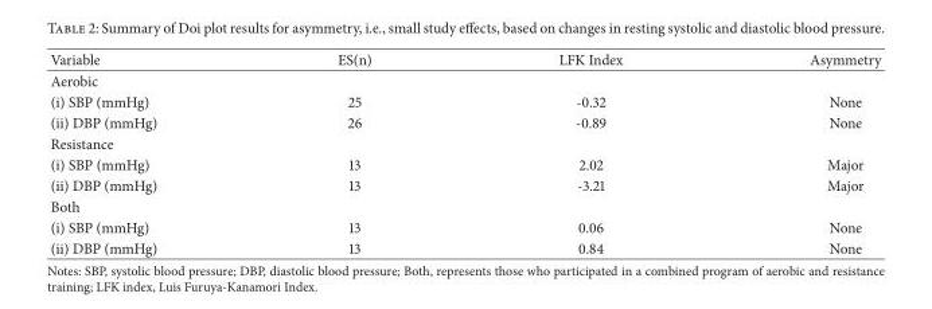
<table><thead><tr><td>Variable</td><td>ES(n)</td><td>LFK Index</td><td>Asymmetry</td></tr></thead><tbody><tr><td colspan="4">Aerobic</td></tr><tr><td>(i) SBP (mmHg)</td><td>25</td><td>-0.32</td><td>None</td></tr><tr><td>(ii) DBP (mmHg)</td><td>26</td><td>-0.89</td><td>None</td></tr><tr><td colspan="4">Resistance</td></tr><tr><td>(i) SBP (mmHg)</td><td>13</td><td>2.02</td><td>Major</td></tr><tr><td>(ii) DBP (mmHg)</td><td>13</td><td>-3.21</td><td>Major</td></tr><tr><td colspan="4">Both</td></tr><tr><td>(i) SBP (mmHg)</td><td>13</td><td>0.06</td><td>None</td></tr><tr><td>(ii) DBP (mmHg)</td><td>13</td><td>0.84</td><td>None</td></tr></tbody></table>